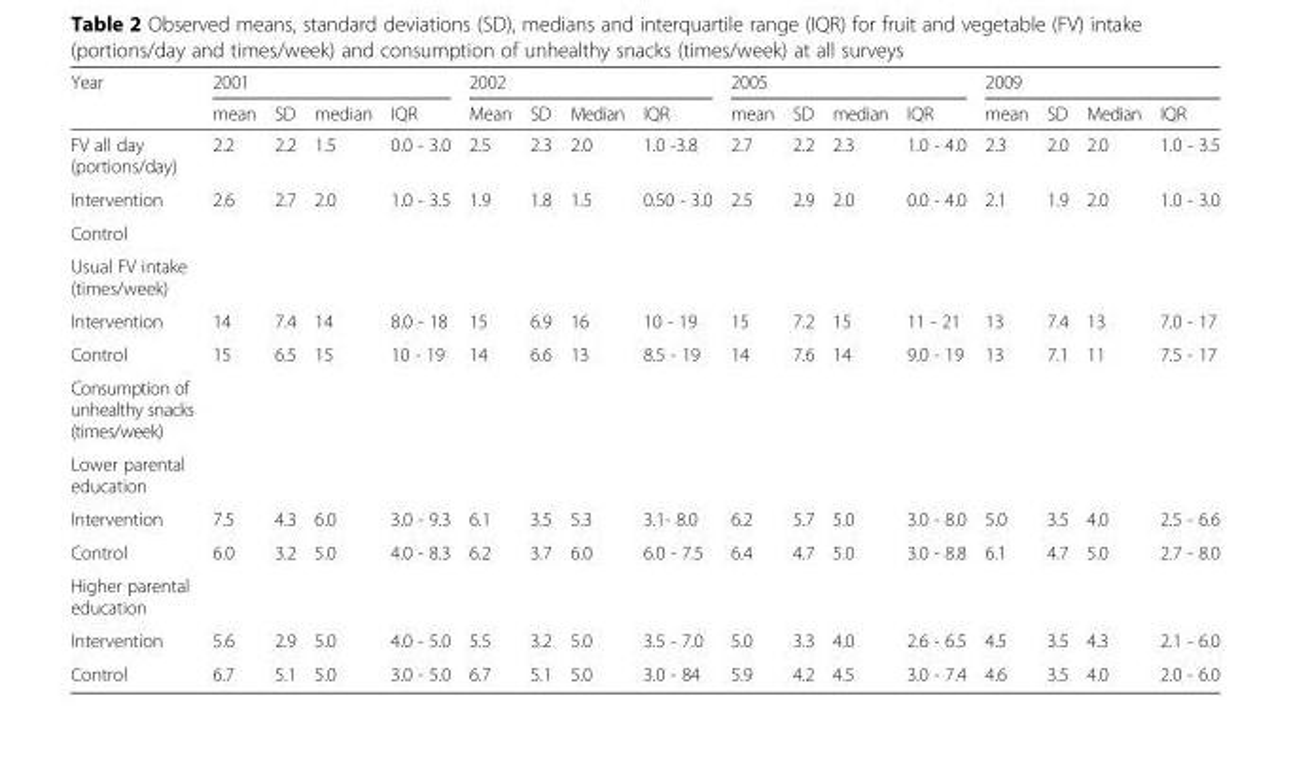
<table><thead><tr><td rowspan="2">Year</td><td colspan="4">2001</td><td colspan="4">2002</td><td colspan="4">2005</td><td colspan="4">2009</td></tr><tr><td>mean</td><td>SD</td><td>median</td><td>IQR</td><td>Mean</td><td>SD</td><td>Median</td><td>IQR</td><td>mean</td><td>SD</td><td>median</td><td>IQR</td><td>mean</td><td>SD</td><td>Median</td><td>IQR</td></tr></thead><tbody><tr><td>FV all day (portions/day)</td><td>2.2</td><td>2.2</td><td>1.5</td><td>0.0 - 3.0</td><td>2.5</td><td>2.3</td><td>2.0</td><td>1.0 -3.8</td><td>2.7</td><td>2.2</td><td>2.3</td><td>1.0 - 4.0</td><td>2.3</td><td>2.0</td><td>2.0</td><td>1.0 - 3.5</td></tr><tr><td>Intervention</td><td>2.6</td><td>2.7</td><td>2.0</td><td>1.0 - 3.5</td><td>1.9</td><td>1.8</td><td>1.5</td><td>0.50 - 3.0</td><td>2.5</td><td>2.9</td><td>2.0</td><td>0.0 - 4.0</td><td>2.1</td><td>1.9</td><td>2.0</td><td>1.0 - 3.0</td></tr><tr><td colspan="17">Control</td></tr><tr><td colspan="17">Usual FV intake (times/week)</td></tr><tr><td>Intervention</td><td>14</td><td>7.4</td><td>14</td><td>8.0 - 18</td><td>15</td><td>6.9</td><td>16</td><td>10 - 19</td><td>15</td><td>7.2</td><td>15</td><td>11 - 21</td><td>13</td><td>7.4</td><td>13</td><td>7.0 - 17</td></tr><tr><td>Control</td><td>15</td><td>6.5</td><td>15</td><td>10 - 19</td><td>14</td><td>6.6</td><td>13</td><td>8.5 - 19</td><td>14</td><td>7.6</td><td>14</td><td>9.0 - 19</td><td>13</td><td>7.1</td><td>11</td><td>7.5 - 17</td></tr><tr><td colspan="17">Consumption of unhealthy snacks (times/week)</td></tr><tr><td colspan="17">Lower parental education</td></tr><tr><td>Intervention</td><td>7.5</td><td>4.3</td><td>6.0</td><td>3.0 - 9.3</td><td>6.1</td><td>3.5</td><td>5.3</td><td>3.1- 8.0</td><td>6.2</td><td>5.7</td><td>5.0</td><td>3.0 - 8.0</td><td>5.0</td><td>3.5</td><td>4.0</td><td>2.5 - 6.6</td></tr><tr><td>Control</td><td>6.0</td><td>3.2</td><td>5.0</td><td>4.0 - 8.3</td><td>6.2</td><td>3.7</td><td>6.0</td><td>6.0 - 7.5</td><td>6.4</td><td>4.7</td><td>5.0</td><td>3.0 - 8.8</td><td>6.1</td><td>4.7</td><td>5.0</td><td>2.7 - 8.0</td></tr><tr><td colspan="17">Higher parental education</td></tr><tr><td>Intervention</td><td>5.6</td><td>2.9</td><td>5.0</td><td>4.0 - 5.0</td><td>5.5</td><td>3.2</td><td>5.0</td><td>3.5 - 7.0</td><td>5.0</td><td>3.3</td><td>4.0</td><td>2.6 - 6.5</td><td>4.5</td><td>3.5</td><td>4.3</td><td>2.1 - 6.0</td></tr><tr><td>Control</td><td>6.7</td><td>5.1</td><td>5.0</td><td>3.0 - 5.0</td><td>6.7</td><td>5.1</td><td>5.0</td><td>3.0 - 84</td><td>5.9</td><td>4.2</td><td>4.5</td><td>3.0 - 7.4</td><td>4.6</td><td>3.5</td><td>4.0</td><td>2.0 - 6.0</td></tr></tbody></table>